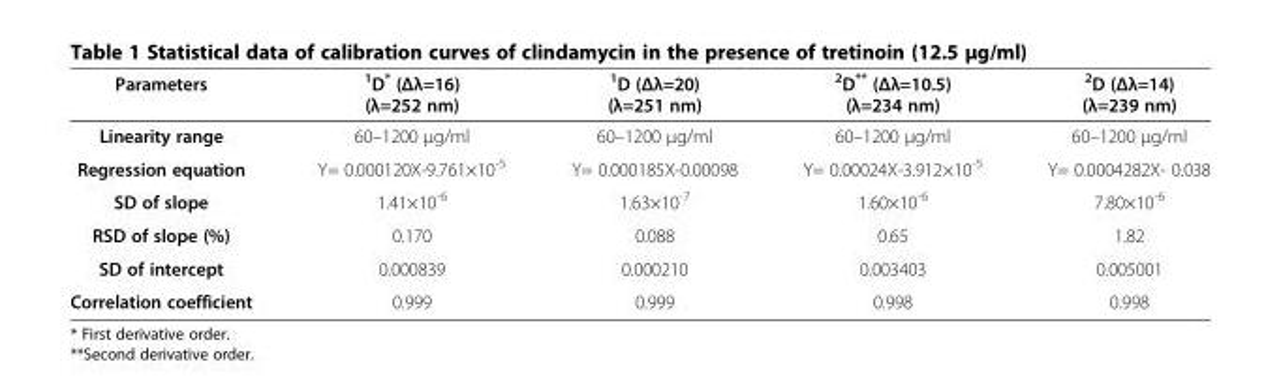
<table><thead><tr><td>Parameters</td><td><sup>1</sup>D* (Δλ=16) (λ=252 nm)</td><td><sup>1</sup>D (Δλ=20) (λ=251 nm)</td><td><sup>2</sup>D** (Δλ=10.5) (λ=234 nm)</td><td><sup>2</sup>D (Δλ=14) (λ=239 nm)</td></tr></thead><tbody><tr><td>Linearity range</td><td>60–1200 μg/ml</td><td>60–1200 μg/ml</td><td>60–1200 μg/ml</td><td>60–1200 μg/ml</td></tr><tr><td>Regression equation</td><td>Y= 0.000120X-9.761×10<sup>-5</sup></td><td>Y= 0.000185X-0.00098</td><td>Y= 0.00024X-3.912×10<sup>-5</sup></td><td>Y= 0.0004282X- 0.038</td></tr><tr><td>SD of slope</td><td>1.41×10<sup>-6</sup></td><td>1.63×10<sup>-7</sup></td><td>1.60×10<sup>-6</sup></td><td>7.80×10<sup>-6</sup></td></tr><tr><td>RSD of slope (%)</td><td>0.170</td><td>0.088</td><td>0.65</td><td>1.82</td></tr><tr><td>SD of intercept</td><td>0.000839</td><td>0.000210</td><td>0.003403</td><td>0.005001</td></tr><tr><td>Correlation coefficient</td><td>0.999</td><td>0.999</td><td>0.998</td><td>0.998</td></tr></tbody></table>